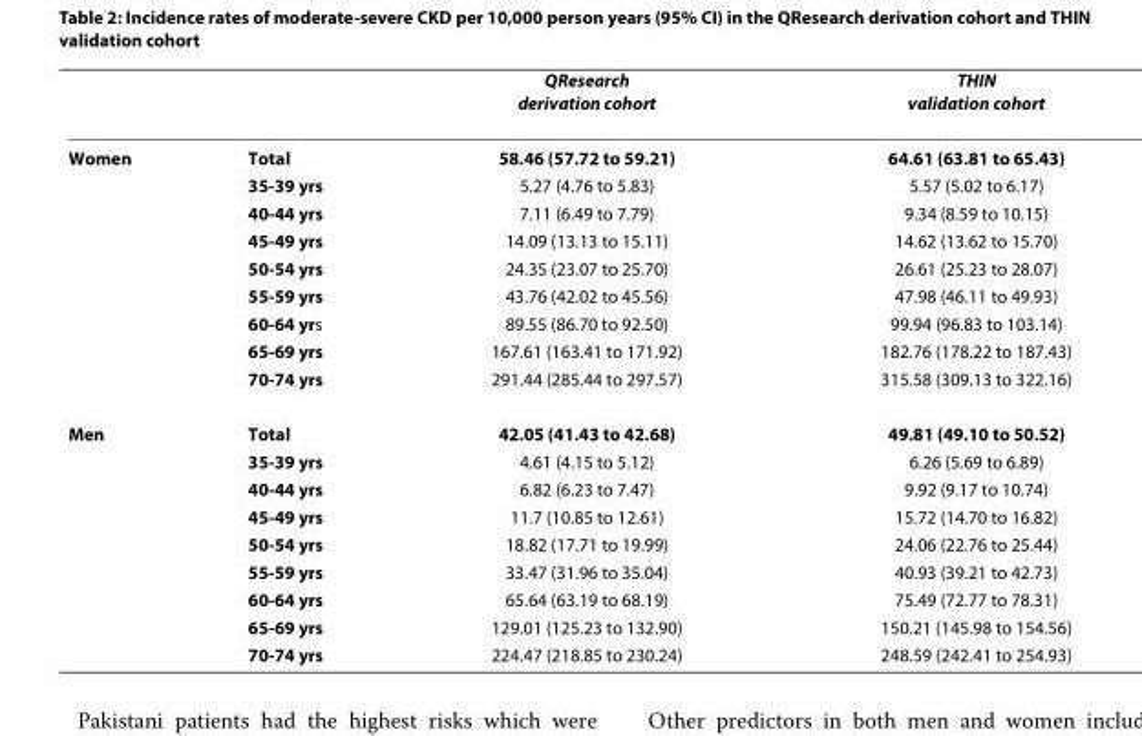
<table><thead><tr><td></td><td></td><td>QResearch derivation cohort</td><td>THIN validation cohort</td></tr></thead><tbody><tr><td rowspan="9">Women</td><td>Total</td><td>58.46 (57.72 to 59.21)</td><td>64.61 (63.81 to 65.43)</td></tr><tr><td>35-39 yrs</td><td>5.27 (4.76 to 5.83)</td><td>5.57 (5.02 to 6.17)</td></tr><tr><td>40-44 yrs</td><td>7.11 (6.49 to 7.79)</td><td>9.34 (8.59 to 10.15)</td></tr><tr><td>45-49 yrs</td><td>14.09 (13.13 to 15.11)</td><td>14.62 (13.62 to 15.70)</td></tr><tr><td>50-54 yrs</td><td>24.35 (23.07 to 25.70)</td><td>26.61 (25.23 to 28.07)</td></tr><tr><td>55-59 yrs</td><td>43.76 (42.02 to 45.56)</td><td>47.98 (46.11 to 49.93)</td></tr><tr><td>60-64 yrs</td><td>89.55 (86.70 to 92.50)</td><td>99.94 (96.83 to 103.14)</td></tr><tr><td>65-69 yrs</td><td>167.61 (163.41 to 171.92)</td><td>182.76 (178.22 to 187.43)</td></tr><tr><td>70-74 yrs</td><td>291.44 (285.44 to 297.57)</td><td>315.58 (309.13 to 322.16)</td></tr><tr><td rowspan="9">Men</td><td>Total</td><td>42.05 (41.43 to 42.68)</td><td>49.81 (49.10 to 50.52)</td></tr><tr><td>35-39 yrs</td><td>4.61 (4.15 to 5.12)</td><td>6.26 (5.69 to 6.89)</td></tr><tr><td>40-44 yrs</td><td>6.82 (6.23 to 7.47)</td><td>9.92 (9.17 to 10.74)</td></tr><tr><td>45-49 yrs</td><td>11.7 (10.85 to 12.61)</td><td>15.72 (14.70 to 16.82)</td></tr><tr><td>50-54 yrs</td><td>18.82 (17.71 to 19.99)</td><td>24.06 (22.76 to 25.44)</td></tr><tr><td>55-59 yrs</td><td>33.47 (31.96 to 35.04)</td><td>40.93 (39.21 to 42.73)</td></tr><tr><td>60-64 yrs</td><td>65.64 (63.19 to 68.19)</td><td>75.49 (72.77 to 78.31)</td></tr><tr><td>65-69 yrs</td><td>129.01 (125.23 to 132.90)</td><td>150.21 (145.98 to 154.56)</td></tr><tr><td>70-74 yrs</td><td>224.47 (218.85 to 230.24)</td><td>248.59 (242.41 to 254.93)</td></tr></tbody></table>